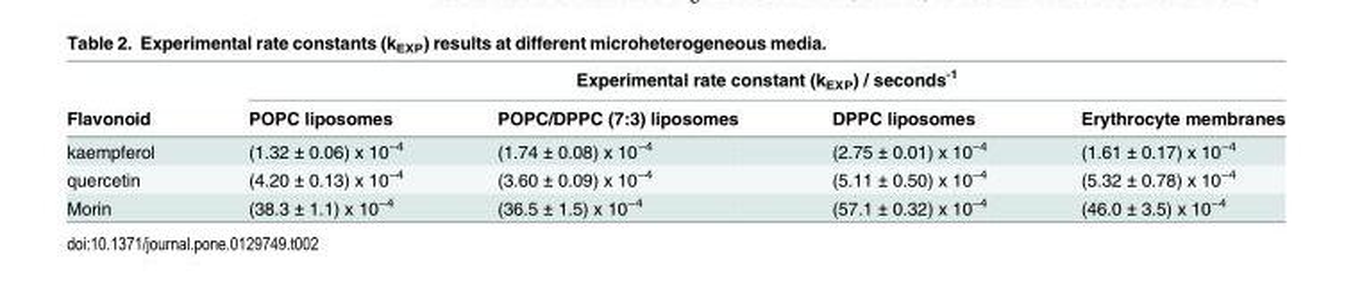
<table><thead><tr><td rowspan="2">Flavonoid</td><td colspan="4">Experimental rate constant (k<sub>EXP</sub>) / seconds<sup>-1</sup></td></tr><tr><td>POPC liposomes</td><td>POPC/DPPC (7:3) liposomes</td><td>DPPC liposomes</td><td>Erythrocyte membranes</td></tr></thead><tbody><tr><td>kaempferol</td><td>(1.32 ± 0.06) x 10<sup>−4</sup></td><td>(1.74 ± 0.08) x 10<sup>−4</sup></td><td>(2.75 ± 0.01) x 10<sup>−4</sup></td><td>(1.61 ± 0.17) x 10<sup>−4</sup></td></tr><tr><td>quercetin</td><td>(4.20 ± 0.13) x 10<sup>−4</sup></td><td>(3.60 ± 0.09) x 10<sup>−4</sup></td><td>(5.11 ± 0.50) x 10<sup>−4</sup></td><td>(5.32 ± 0.78) x 10<sup>−4</sup></td></tr><tr><td>Morin</td><td>(38.3 ± 1.1) x 10<sup>−4</sup></td><td>(36.5 ± 1.5) x 10<sup>−4</sup></td><td>(57.1 ± 0.32) x 10<sup>−4</sup></td><td>(46.0 ± 3.5) x 10<sup>−4</sup></td></tr></tbody></table>